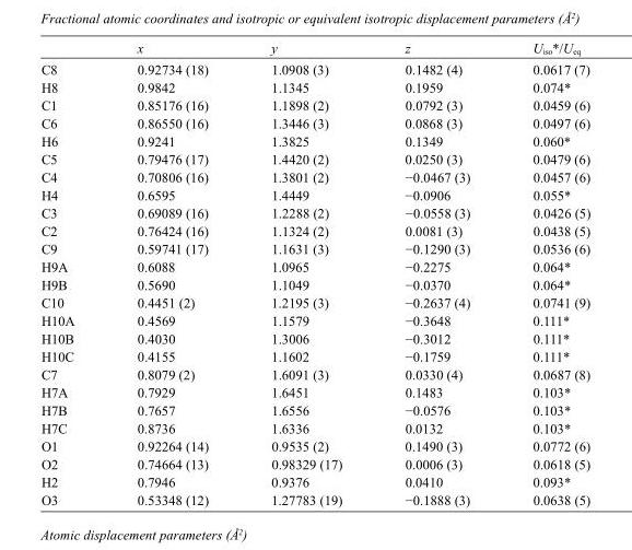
<table><thead><tr><td></td><td>x</td><td>y</td><td>z</td><td>U<sub>iso</sub>*/U<sub>eq</sub></td></tr></thead><tbody><tr><td>C8</td><td>0.92734 (18)</td><td>1.0908 (3)</td><td>0.1482 (4)</td><td>0.0617 (7)</td></tr><tr><td>H8</td><td>0.9842</td><td>1.1345</td><td>0.1959</td><td>0.074*</td></tr><tr><td>C1</td><td>0.85176 (16)</td><td>1.1898 (2)</td><td>0.0792 (3)</td><td>0.0459 (6)</td></tr><tr><td>C6</td><td>0.86550 (16)</td><td>1.3446 (3)</td><td>0.0868 (3)</td><td>0.0497 (6)</td></tr><tr><td>H6</td><td>0.9241</td><td>1.3825</td><td>0.1349</td><td>0.060*</td></tr><tr><td>C5</td><td>0.79476 (17)</td><td>1.4420 (2)</td><td>0.0250 (3)</td><td>0.0479 (6)</td></tr><tr><td>C4</td><td>0.70806 (16)</td><td>1.3801 (2)</td><td>−0.0467 (3)</td><td>0.0457 (6)</td></tr><tr><td>H4</td><td>0.6595</td><td>1.4449</td><td>−0.0906</td><td>0.055*</td></tr><tr><td>C3</td><td>0.69089 (16)</td><td>1.2288 (2)</td><td>−0.0558 (3)</td><td>0.0426 (5)</td></tr><tr><td>C2</td><td>0.76424 (16)</td><td>1.1324 (2)</td><td>0.0081 (3)</td><td>0.0438 (5)</td></tr><tr><td>C9</td><td>0.59741 (17)</td><td>1.1631 (3)</td><td>−0.1290 (3)</td><td>0.0536 (6)</td></tr><tr><td>H9A</td><td>0.6088</td><td>1.0965</td><td>−0.2275</td><td>0.064*</td></tr><tr><td>H9B</td><td>0.5690</td><td>1.1049</td><td>−0.0370</td><td>0.064*</td></tr><tr><td>C10</td><td>0.4451 (2)</td><td>1.2195 (3)</td><td>−0.2637 (4)</td><td>0.0741 (9)</td></tr><tr><td>H10A</td><td>0.4569</td><td>1.1579</td><td>−0.3648</td><td>0.111*</td></tr><tr><td>H10B</td><td>0.4030</td><td>1.3006</td><td>−0.3012</td><td>0.111*</td></tr><tr><td>H10C</td><td>0.4155</td><td>1.1602</td><td>−0.1759</td><td>0.111*</td></tr><tr><td>C7</td><td>0.8079 (2)</td><td>1.6091 (3)</td><td>0.0330 (4)</td><td>0.0687 (8)</td></tr><tr><td>H7A</td><td>0.7929</td><td>1.6451</td><td>0.1483</td><td>0.103*</td></tr><tr><td>H7B</td><td>0.7657</td><td>1.6556</td><td>−0.0576</td><td>0.103*</td></tr><tr><td>H7C</td><td>0.8736</td><td>1.6336</td><td>0.0132</td><td>0.103*</td></tr><tr><td>O1</td><td>0.92264 (14)</td><td>0.9535 (2)</td><td>0.1490 (3)</td><td>0.0772 (6)</td></tr><tr><td>O2</td><td>0.74664 (13)</td><td>0.98329 (17)</td><td>0.0006 (3)</td><td>0.0618 (5)</td></tr><tr><td>H2</td><td>0.7946</td><td>0.9376</td><td>0.0410</td><td>0.093*</td></tr><tr><td>O3</td><td>0.53348 (12)</td><td>1.27783 (19)</td><td>−0.1888 (3)</td><td>0.0638 (5)</td></tr></tbody></table>